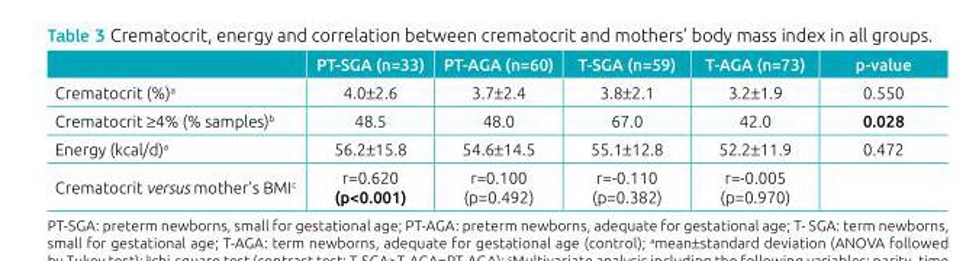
<table><thead><tr><td></td><td>PT‑SGA (n=33)</td><td>PT‑AGA (n=60)</td><td>T‑SGA (n=59)</td><td>T‑AGA (n=73)</td><td>p‑value</td></tr></thead><tbody><tr><td>Crematocrit (%)<sup>a</sup></td><td>4.0±2.6</td><td>3.7±2.4</td><td>3.8±2.1</td><td>3.2±1.9</td><td>0.550</td></tr><tr><td>Crematocrit ≥4% (% samples)<sup>b</sup></td><td>48.5</td><td>48.0</td><td>67.0</td><td>42.0</td><td>0.028</td></tr><tr><td>Energy (kcal/d)<sup>a</sup></td><td>56.2±15.8</td><td>54.6±14.5</td><td>55.1±12.8</td><td>52.2±11.9</td><td>0.472</td></tr><tr><td>Crematocrit versus mother’s BMI<sup>c</sup></td><td>r=0.620 (p&lt;0.001)</td><td>r=0.100 (p=0.492)</td><td>r=‑0.110 (p=0.382)</td><td>r=‑0.005 (p=0.970)</td><td></td></tr></tbody></table>